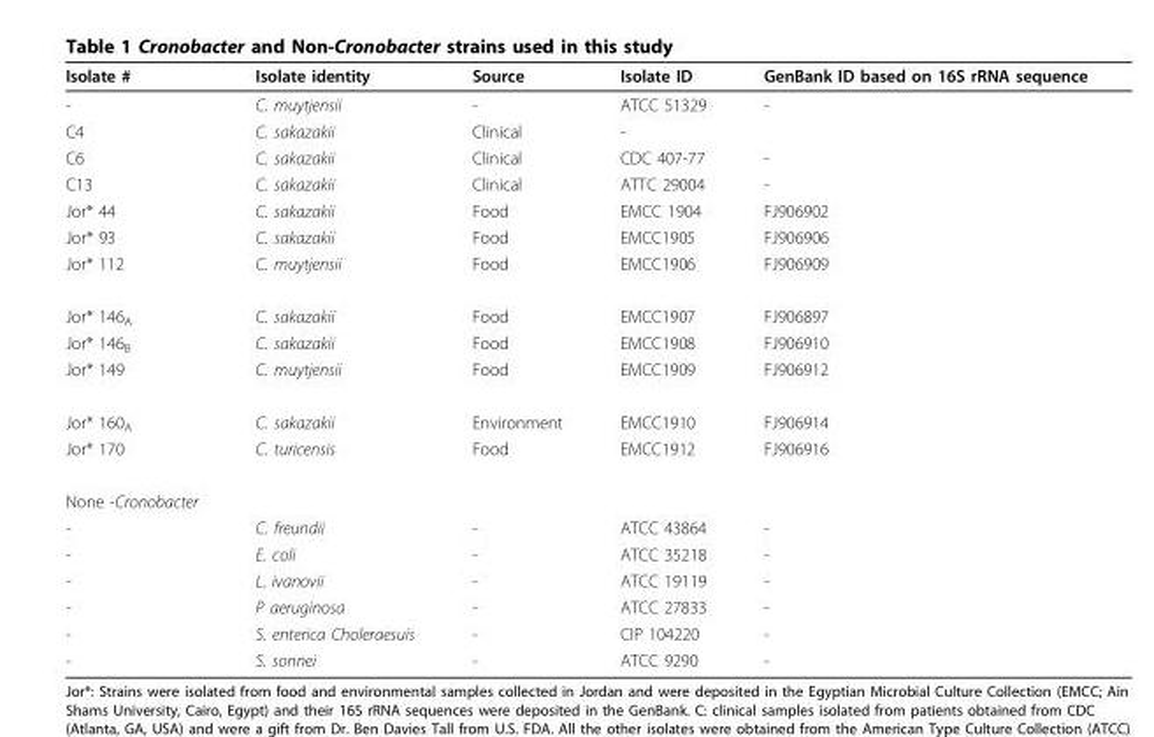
<table><thead><tr><td>Isolate #</td><td>Isolate identity</td><td>Source</td><td>Isolate ID</td><td>GenBank ID based on 16S rRNA sequence</td></tr></thead><tbody><tr><td>-</td><td>C. muytjensii</td><td>-</td><td>ATCC 51329</td><td>-</td></tr><tr><td>C4</td><td>C. sakazakii</td><td>Clinical</td><td>-</td><td></td></tr><tr><td>C6</td><td>C. sakazakii</td><td>Clinical</td><td>CDC 407-77</td><td>-</td></tr><tr><td>C13</td><td>C. sakazakii</td><td>Clinical</td><td>ATTC 29004</td><td>-</td></tr><tr><td>Jor* 44</td><td>C. sakazakii</td><td>Food</td><td>EMCC 1904</td><td>FJ906902</td></tr><tr><td>Jor* 93</td><td>C. sakazakii</td><td>Food</td><td>EMCC1905</td><td>FJ906906</td></tr><tr><td>Jor* 112</td><td>C. muytjensii</td><td>Food</td><td>EMCC1906</td><td>FJ906909</td></tr><tr><td>Jor* 146<sub>A</sub></td><td>C. sakazakii</td><td>Food</td><td>EMCC1907</td><td>FJ906897</td></tr><tr><td>Jor* 146<sub>B</sub></td><td>C. sakazakii</td><td>Food</td><td>EMCC1908</td><td>FJ906910</td></tr><tr><td>Jor* 149</td><td>C. muytjensii</td><td>Food</td><td>EMCC1909</td><td>FJ906912</td></tr><tr><td>Jor* 160<sub>A</sub></td><td>C. sakazakii</td><td>Environment</td><td>EMCC1910</td><td>FJ906914</td></tr><tr><td>Jor* 170</td><td>C. turicensis</td><td>Food</td><td>EMCC1912</td><td>FJ906916</td></tr><tr><td colspan="5">None -Cronobacter</td></tr><tr><td>-</td><td>C. freundii</td><td>-</td><td>ATCC 43864</td><td>-</td></tr><tr><td>-</td><td>E. coli</td><td>-</td><td>ATCC 35218</td><td>-</td></tr><tr><td>-</td><td>L. ivanovii</td><td>-</td><td>ATCC 19119</td><td>-</td></tr><tr><td>-</td><td>P aeruginosa</td><td>-</td><td>ATCC 27833</td><td>-</td></tr><tr><td>-</td><td>S. enterica Choleraesuis</td><td>-</td><td>CIP 104220</td><td>-</td></tr><tr><td>-</td><td>S. sonnei</td><td>-</td><td>ATCC 9290</td><td>-</td></tr></tbody></table>